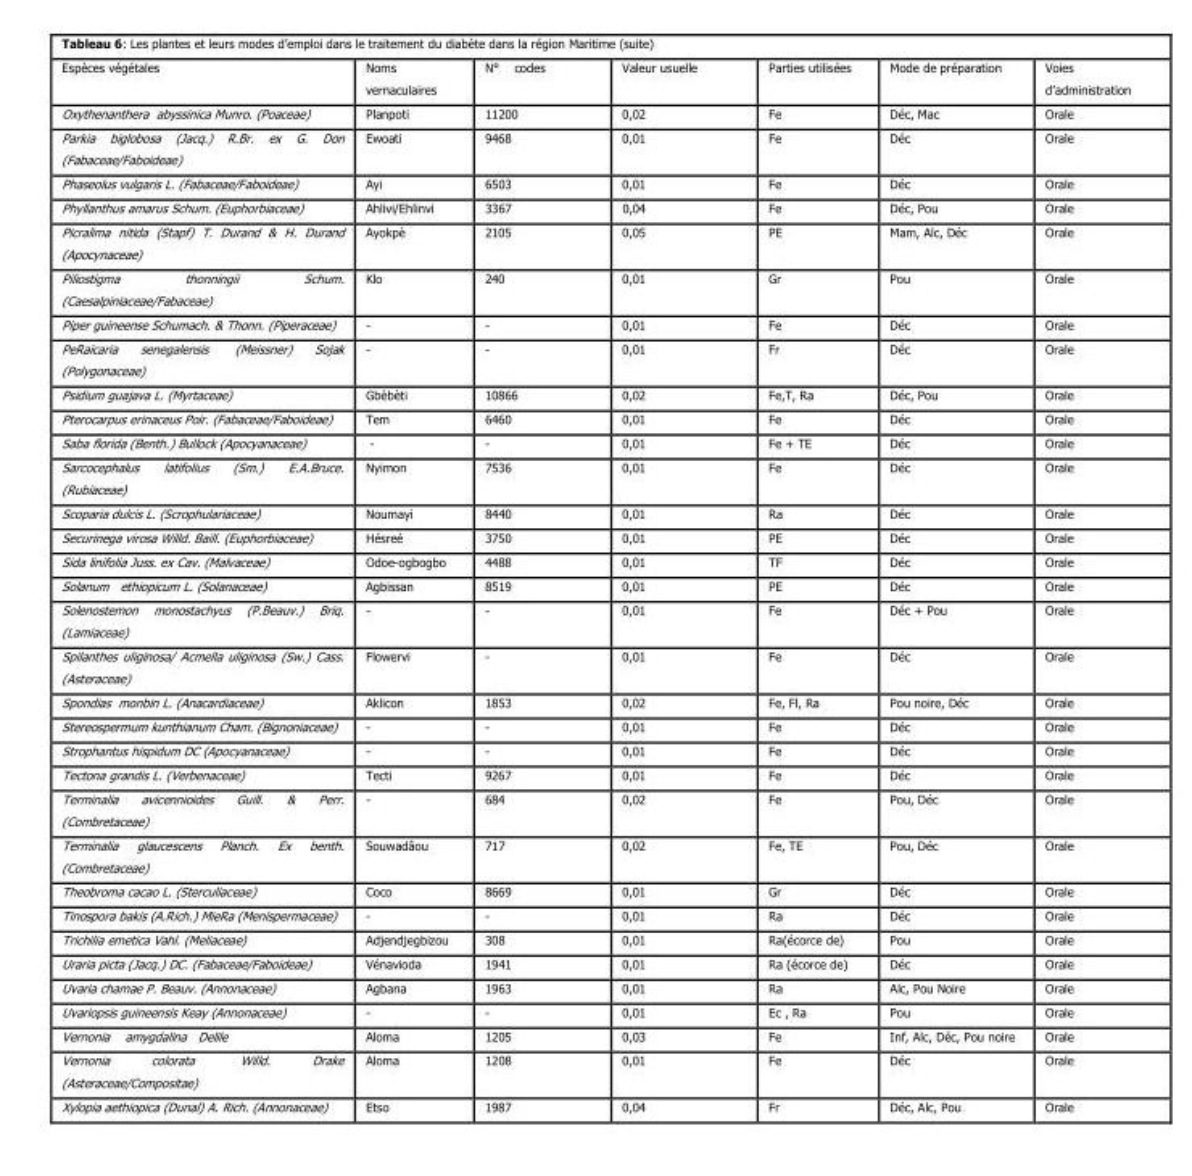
<table><thead><tr><td>Espèces végétales</td><td>Noms vernaculaires</td><td>N° codes</td><td>Valeur usuelle</td><td>Parties utilisées</td><td>Mode de préparation</td><td>Voies d’administration</td></tr></thead><tbody><tr><td>Oxythenanthera abyssinica Munro. (Poaceae)</td><td>Planpoti</td><td>11200</td><td>0,02</td><td>Fe</td><td>Déc, Mac</td><td>Orale</td></tr><tr><td>Parkia biglobosa (Jacq.) R.Br. ex G. Don (Fabaceae/Faboideae)</td><td>Ewoati</td><td>9468</td><td>0,01</td><td>Fe</td><td>Déc</td><td>Orale</td></tr><tr><td>Phaseolus vulgaris L. (Fabaceae/Faboideae)</td><td>Ayi</td><td>6503</td><td>0,01</td><td>Fe</td><td>Déc</td><td>Orale</td></tr><tr><td>Phyllanthus amarus Schum. (Euphorbiaceae)</td><td>Ahlivi/Ehlinvi</td><td>3367</td><td>0,04</td><td>Fe</td><td>Déc, Pou</td><td>Orale</td></tr><tr><td>Picralima nitida (Stapf) T. Durand &amp; H. Durand (Apocynaceae)</td><td>Ayokpè</td><td>2105</td><td>0,05</td><td>PE</td><td>Mam, Alc, Déc</td><td>Orale</td></tr><tr><td>Piliostigma thonningii Schum. (Caesalpiniaceae/Fabaceae)</td><td>Klo</td><td>240</td><td>0,01</td><td>Gr</td><td>Pou</td><td>Orale</td></tr><tr><td>Piper guineense Schumach. &amp; Thonn. (Piperaceae)</td><td>-</td><td>-</td><td>0,01</td><td>Fe</td><td>Déc</td><td>Orale</td></tr><tr><td>PeRaicaria senegalensis (Meissner) Sojak (Polygonaceae)</td><td>-</td><td>-</td><td>0,01</td><td>Fr</td><td>Déc</td><td>Orale</td></tr><tr><td>Psidium guajava L. (Myrtaceae)</td><td>Gbèbèti</td><td>10866</td><td>0,02</td><td>Fe,T, Ra</td><td>Déc, Pou</td><td>Orale</td></tr><tr><td>Pterocarpus erinaceus Poir. (Fabaceae/Faboideae)</td><td>Tem</td><td>6460</td><td>0,01</td><td>Fe</td><td>Déc</td><td>Orale</td></tr><tr><td>Saba florida (Benth.) Bullock (Apocyanaceae)</td><td>-</td><td>-</td><td>0,01</td><td>Fe + TE</td><td>Déc</td><td>Orale</td></tr><tr><td>Sarcocephalus latifolius (Sm.) E.A.Bruce. (Rubiaceae)</td><td>Nyimon</td><td>7536</td><td>0,01</td><td>Fe</td><td>Déc</td><td>Orale</td></tr><tr><td>Scoparia dulcis L. (Scrophulariaceae)</td><td>Noumayi</td><td>8440</td><td>0,01</td><td>Ra</td><td>Déc</td><td>Orale</td></tr><tr><td>Securinega virosa Willd. Baill. (Euphorbiaceae)</td><td>Hésreé</td><td>3750</td><td>0,01</td><td>PE</td><td>Déc</td><td>Orale</td></tr><tr><td>Sida linifolia Juss. ex Cav. (Malvaceae)</td><td>Odoe-ogbogbo</td><td>4488</td><td>0,01</td><td>TF</td><td>Déc</td><td>Orale</td></tr><tr><td>Solanum ethiopicum L. (Solanaceae)</td><td>Agbissan</td><td>8519</td><td>0,01</td><td>PE</td><td>Déc</td><td>Orale</td></tr><tr><td>Solenostemon monostachyus (P.Beauv.) Briq. (Lamiaceae)</td><td>-</td><td>-</td><td>0,01</td><td>Fe</td><td>Déc + Pou</td><td>Orale</td></tr><tr><td>Spilanthes uliginosa/ Acmella uliginosa (Sw.) Cass. (Asteraceae)</td><td>Flowervi</td><td>-</td><td>0,01</td><td>Fe</td><td>Déc</td><td>Orale</td></tr><tr><td>Spondias monbin L. (Anacardiaceae)</td><td>Aklicon</td><td>1853</td><td>0,02</td><td>Fe, Fl, Ra</td><td>Pou noire, Déc</td><td>Orale</td></tr><tr><td>Stereospermum kunthianum Cham. (Bignoniaceae)</td><td>-</td><td>-</td><td>0,01</td><td>Fe</td><td>Déc</td><td>Orale</td></tr><tr><td>Strophantus hispidum DC (Apocyanaceae)</td><td>-</td><td>-</td><td>0,01</td><td>Fe</td><td>Déc</td><td>Orale</td></tr><tr><td>Tectona grandis L. (Verbenaceae)</td><td>Tecti</td><td>9267</td><td>0,01</td><td>Fe</td><td>Déc</td><td>Orale</td></tr><tr><td>Terminalia avicennioides Guill. &amp; Perr. (Combretaceae)</td><td>-</td><td>684</td><td>0,02</td><td>Fe</td><td>Pou, Déc</td><td>Orale</td></tr><tr><td>Terminalia glaucescens Planch. Ex benth. (Combretaceae)</td><td>Souwadâou</td><td>717</td><td>0,02</td><td>Fe, TE</td><td>Pou, Déc</td><td>Orale</td></tr><tr><td>Theobroma cacao L. (Sterculiaceae)</td><td>Coco</td><td>8669</td><td>0,01</td><td>Gr</td><td>Déc</td><td>Orale</td></tr><tr><td>Tinospora bakis (A.Rich.) MieRa (Menispermaceae)</td><td>-</td><td>-</td><td>0,01</td><td>Ra</td><td>Déc</td><td>Orale</td></tr><tr><td>Trichilia emetica Vahl. (Meliaceae)</td><td>Adjendjegbizou</td><td>308</td><td>0,01</td><td>Ra(écorce de)</td><td>Pou</td><td>Orale</td></tr><tr><td>Uraria picta (Jacq.) DC. (Fabaceae/Faboideae)</td><td>Vénavioda</td><td>1941</td><td>0,01</td><td>Ra (écorce de)</td><td>Déc</td><td>Orale</td></tr><tr><td>Uvaria chamae P. Beauv. (Annonaceae)</td><td>Agbana</td><td>1963</td><td>0,01</td><td>Ra</td><td>Alc, Pou Noire</td><td>Orale</td></tr><tr><td>Uvariopsis guineensis Keay (Annonaceae)</td><td>-</td><td>-</td><td>0,01</td><td>Ec , Ra</td><td>Pou</td><td>Orale</td></tr><tr><td>Vernonia amygdalina Delile</td><td>Aloma</td><td>1205</td><td>0,03</td><td>Fe</td><td>Inf, Alc, Déc, Pou noire</td><td>Orale</td></tr><tr><td>Vernonia colorata Willd. Drake (Asteraceae/Compositae)</td><td>Aloma</td><td>1208</td><td>0,01</td><td>Fe</td><td>Déc</td><td>Orale</td></tr><tr><td>Xylopia aethiopica (Dunal) A. Rich. (Annonaceae)</td><td>Etso</td><td>1987</td><td>0,04</td><td>Fr</td><td>Déc, Alc, Pou</td><td>Orale</td></tr></tbody></table>